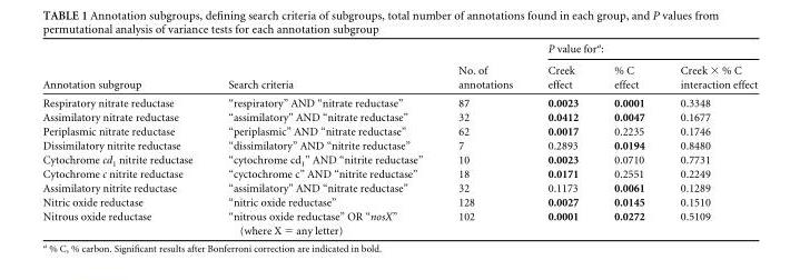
<table><thead><tr><td rowspan="2">Annotation subgroup</td><td rowspan="2">Search criteria</td><td rowspan="2">No. of annotations</td><td colspan="3">P value for<sup>a</sup>:</td></tr><tr><td>Creek effect</td><td>% C effect</td><td>Creek × % C interaction effect</td></tr></thead><tbody><tr><td>Respiratory nitrate reductase</td><td>“respiratory” AND “nitrate reductase”</td><td>87</td><td>0.0023</td><td>0.0001</td><td>0.3348</td></tr><tr><td>Assimilatory nitrate reductase</td><td>“assimilatory” AND “nitrate reductase”</td><td>32</td><td>0.0412</td><td>0.0047</td><td>0.1677</td></tr><tr><td>Periplasmic nitrate reductase</td><td>“periplasmic” AND “nitrate reductase”</td><td>62</td><td>0.0017</td><td>0.2235</td><td>0.1746</td></tr><tr><td>Dissimilatory nitrite reductase</td><td>“dissimilatory” AND “nitrite reductase”</td><td>7</td><td>0.2893</td><td>0.0194</td><td>0.8480</td></tr><tr><td>Cytochrome cd<sub>1</sub> nitrite reductase</td><td>“cytochrome cd<sub>1</sub>” AND “nitrite reductase”</td><td>10</td><td>0.0023</td><td>0.0710</td><td>0.7731</td></tr><tr><td>Cytochrome c nitrite reductase</td><td>“cyctochrome c” AND “nitrite reductase”</td><td>18</td><td>0.0171</td><td>0.2551</td><td>0.2249</td></tr><tr><td>Assimilatory nitrite reductase</td><td>“assimilatory” AND “nitrate reductase”</td><td>32</td><td>0.1173</td><td>0.0061</td><td>0.1289</td></tr><tr><td>Nitric oxide reductase</td><td>“nitric oxide reductase”</td><td>128</td><td>0.0027</td><td>0.0145</td><td>0.1510</td></tr><tr><td>Nitrous oxide reductase</td><td>“nitrous oxide reductase” OR “nosX” (where X = any letter)</td><td>102</td><td>0.0001</td><td>0.0272</td><td>0.5109</td></tr></tbody></table>